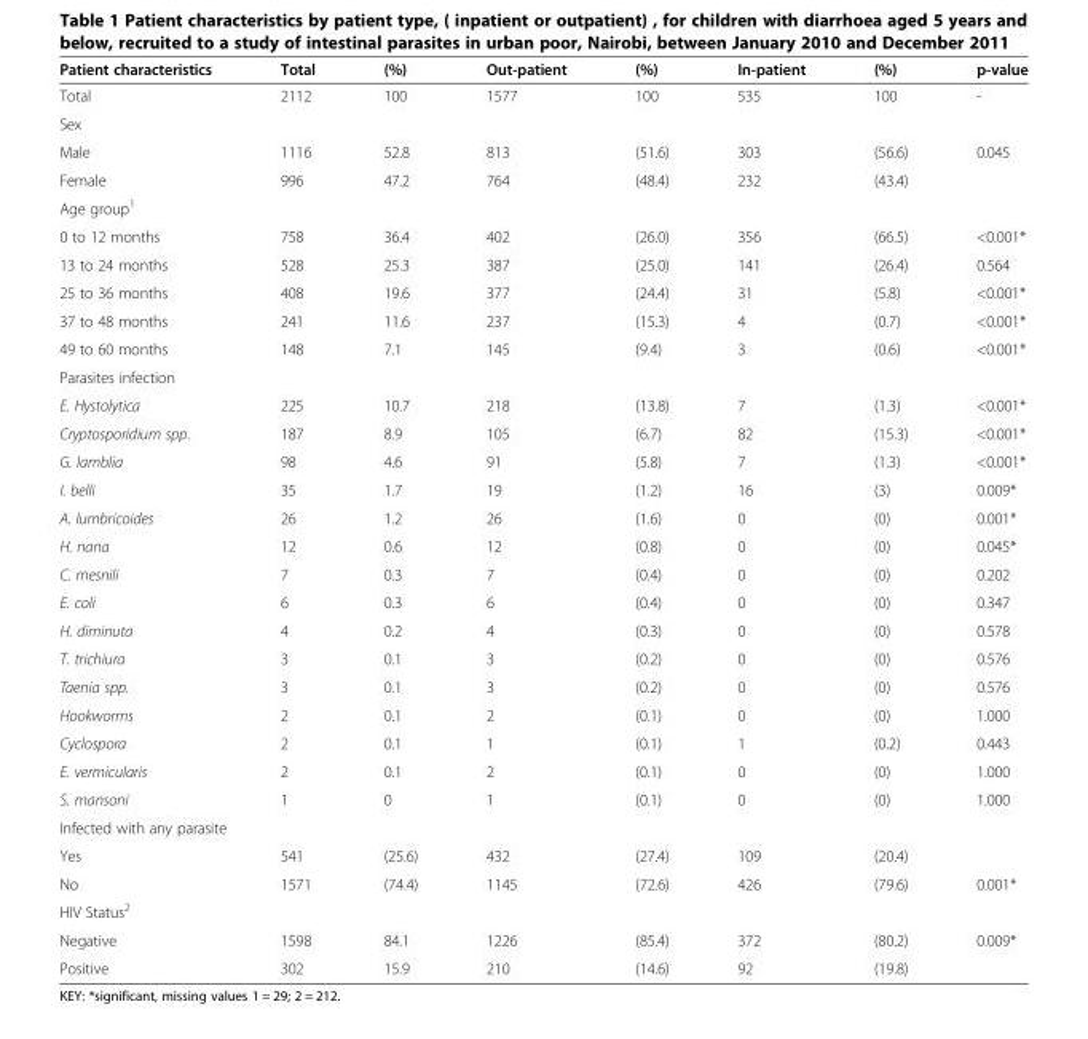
<table><thead><tr><td>Patient characteristics</td><td>Total</td><td>(%)</td><td>Out-patient</td><td>(%)</td><td>In-patient</td><td>(%)</td><td>p-value</td></tr></thead><tbody><tr><td>Total</td><td>2112</td><td>100</td><td>1577</td><td>100</td><td>535</td><td>100</td><td>-</td></tr><tr><td colspan="8">Sex</td></tr><tr><td>Male</td><td>1116</td><td>52.8</td><td>813</td><td>(51.6)</td><td>303</td><td>(56.6)</td><td>0.045</td></tr><tr><td>Female</td><td>996</td><td>47.2</td><td>764</td><td>(48.4)</td><td>232</td><td>(43.4)</td><td></td></tr><tr><td colspan="8">Age group<sup>1</sup></td></tr><tr><td>0 to 12 months</td><td>758</td><td>36.4</td><td>402</td><td>(26.0)</td><td>356</td><td>(66.5)</td><td>&lt;0.001*</td></tr><tr><td>13 to 24 months</td><td>528</td><td>25.3</td><td>387</td><td>(25.0)</td><td>141</td><td>(26.4)</td><td>0.564</td></tr><tr><td>25 to 36 months</td><td>408</td><td>19.6</td><td>377</td><td>(24.4)</td><td>31</td><td>(5.8)</td><td>&lt;0.001*</td></tr><tr><td>37 to 48 months</td><td>241</td><td>11.6</td><td>237</td><td>(15.3)</td><td>4</td><td>(0.7)</td><td>&lt;0.001*</td></tr><tr><td>49 to 60 months</td><td>148</td><td>7.1</td><td>145</td><td>(9.4)</td><td>3</td><td>(0.6)</td><td>&lt;0.001*</td></tr><tr><td colspan="8">Parasites infection</td></tr><tr><td>E. Hystolytica</td><td>225</td><td>10.7</td><td>218</td><td>(13.8)</td><td>7</td><td>(1.3)</td><td>&lt;0.001*</td></tr><tr><td>Cryptosporidium spp.</td><td>187</td><td>8.9</td><td>105</td><td>(6.7)</td><td>82</td><td>(15.3)</td><td>&lt;0.001*</td></tr><tr><td>G. lamblia</td><td>98</td><td>4.6</td><td>91</td><td>(5.8)</td><td>7</td><td>(1.3)</td><td>&lt;0.001*</td></tr><tr><td>I. belli</td><td>35</td><td>1.7</td><td>19</td><td>(1.2)</td><td>16</td><td>(3)</td><td>0.009*</td></tr><tr><td>A. lumbricoides</td><td>26</td><td>1.2</td><td>26</td><td>(1.6)</td><td>0</td><td>(0)</td><td>0.001*</td></tr><tr><td>H. nana</td><td>12</td><td>0.6</td><td>12</td><td>(0.8)</td><td>0</td><td>(0)</td><td>0.045*</td></tr><tr><td>C. mesnili</td><td>7</td><td>0.3</td><td>7</td><td>(0.4)</td><td>0</td><td>(0)</td><td>0.202</td></tr><tr><td>E. coli</td><td>6</td><td>0.3</td><td>6</td><td>(0.4)</td><td>0</td><td>(0)</td><td>0.347</td></tr><tr><td>H. diminuta</td><td>4</td><td>0.2</td><td>4</td><td>(0.3)</td><td>0</td><td>(0)</td><td>0.578</td></tr><tr><td>T. trichiura</td><td>3</td><td>0.1</td><td>3</td><td>(0.2)</td><td>0</td><td>(0)</td><td>0.576</td></tr><tr><td>Taenia spp.</td><td>3</td><td>0.1</td><td>3</td><td>(0.2)</td><td>0</td><td>(0)</td><td>0.576</td></tr><tr><td>Hookworms</td><td>2</td><td>0.1</td><td>2</td><td>(0.1)</td><td>0</td><td>(0)</td><td>1.000</td></tr><tr><td>Cyclospora</td><td>2</td><td>0.1</td><td>1</td><td>(0.1)</td><td>1</td><td>(0.2)</td><td>0.443</td></tr><tr><td>E. vermicularis</td><td>2</td><td>0.1</td><td>2</td><td>(0.1)</td><td>0</td><td>(0)</td><td>1.000</td></tr><tr><td>S. mansoni</td><td>1</td><td>0</td><td>1</td><td>(0.1)</td><td>0</td><td>(0)</td><td>1.000</td></tr><tr><td colspan="8">Infected with any parasite</td></tr><tr><td>Yes</td><td>541</td><td>(25.6)</td><td>432</td><td>(27.4)</td><td>109</td><td>(20.4)</td><td></td></tr><tr><td>No</td><td>1571</td><td>(74.4)</td><td>1145</td><td>(72.6)</td><td>426</td><td>(79.6)</td><td>0.001*</td></tr><tr><td colspan="8">HIV Status<sup>2</sup></td></tr><tr><td>Negative</td><td>1598</td><td>84.1</td><td>1226</td><td>(85.4)</td><td>372</td><td>(80.2)</td><td>0.009*</td></tr><tr><td>Positive</td><td>302</td><td>15.9</td><td>210</td><td>(14.6)</td><td>92</td><td>(19.8)</td><td></td></tr></tbody></table>